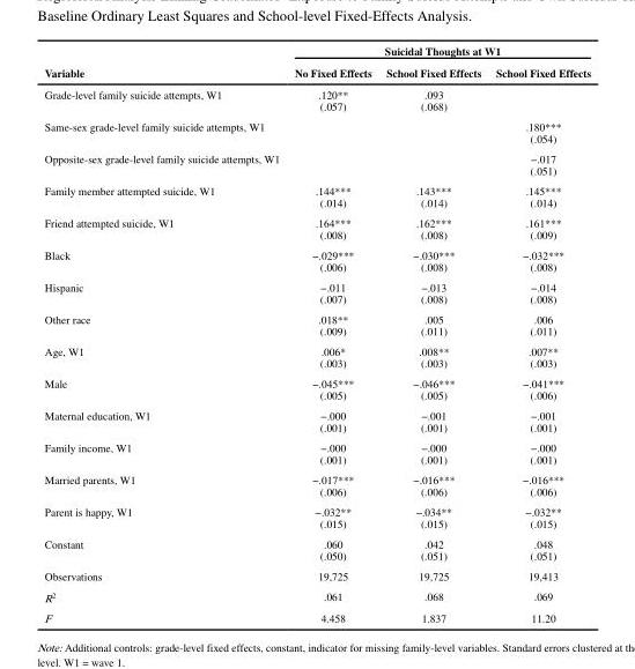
<table><thead><tr><td rowspan="2">Variable</td><td colspan="3">Suicidal Thoughts at W1</td></tr><tr><td>No Fixed Effects</td><td>School Fixed Effects</td><td>School Fixed Effects</td></tr></thead><tbody><tr><td>Grade-level family suicide attempts, W1</td><td>.120** (.057)</td><td>.093 (.068)</td><td></td></tr><tr><td>Same-sex grade-level family suicide attempts, W1</td><td></td><td></td><td>.180*** (.054)</td></tr><tr><td>Opposite-sex grade-level family suicide attempts, W1</td><td></td><td></td><td>−.017 (.051)</td></tr><tr><td>Family member attempted suicide, W1</td><td>.144*** (.014)</td><td>.143*** (.014)</td><td>.145*** (.014)</td></tr><tr><td>Friend attempted suicide, W1</td><td>.164*** (.008)</td><td>.162*** (.008)</td><td>.161*** (.009)</td></tr><tr><td>Black</td><td>−.029*** (.006)</td><td>−.030*** (.008)</td><td>−.032*** (.008)</td></tr><tr><td>Hispanic</td><td>−.011 (.007)</td><td>−.013 (.008)</td><td>−.014 (.008)</td></tr><tr><td>Other race</td><td>.018** (.009)</td><td>.005 (.011)</td><td>.006 (.011)</td></tr><tr><td>Age, W1</td><td>.006* (.003)</td><td>.008** (.003)</td><td>.007** (.003)</td></tr><tr><td>Male</td><td>−.045*** (.005)</td><td>−.046*** (.005)</td><td>−.041*** (.006)</td></tr><tr><td>Maternal education, W1</td><td>−.000 (.001)</td><td>−.001 (.001)</td><td>−.001 (.001)</td></tr><tr><td>Family income, W1</td><td>−.000 (.001)</td><td>−.000 (.001)</td><td>−.000 (.001)</td></tr><tr><td>Married parents, W1</td><td>−.017*** (.006)</td><td>−.016*** (.006)</td><td>−.016*** (.006)</td></tr><tr><td>Parent is happy, W1</td><td>−.032** (.015)</td><td>−.034** (.015)</td><td>−.032** (.015)</td></tr><tr><td>Constant</td><td>.060 (.050)</td><td>.042 (.051)</td><td>.048 (.051)</td></tr><tr><td>Observations</td><td>19,725</td><td>19,725</td><td>19,413</td></tr><tr><td>R<sup>2</sup></td><td>.061</td><td>.068</td><td>.069</td></tr><tr><td>F</td><td>4.458</td><td>1.837</td><td>11.20</td></tr></tbody></table>